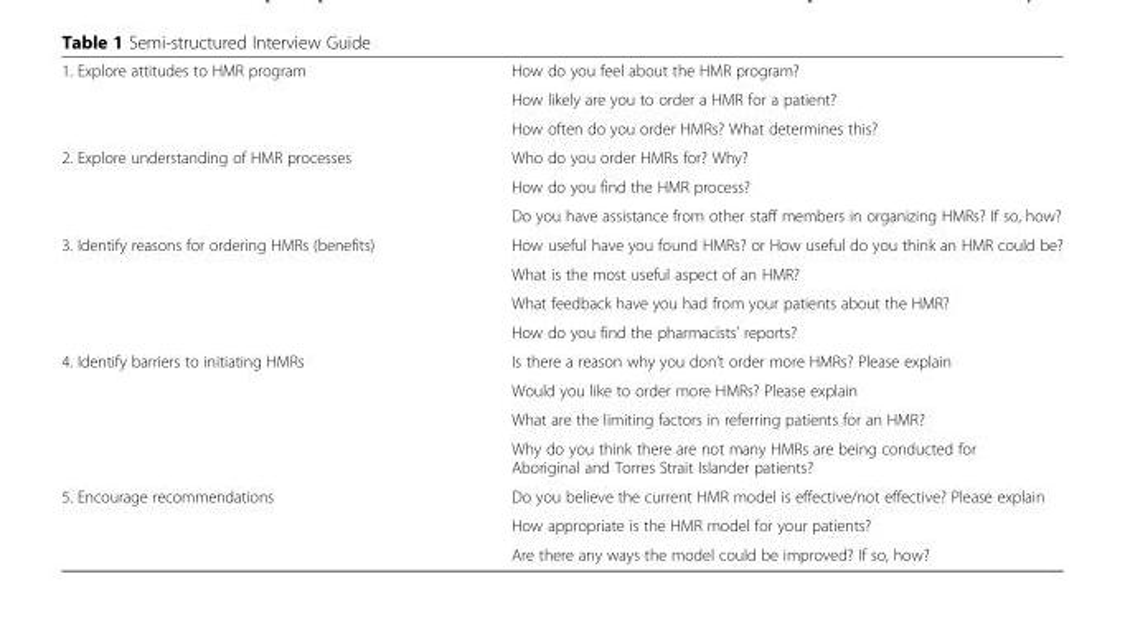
<table><tbody><tr><td rowspan="3">1. Explore attitudes to HMR program</td><td>How do you feel about the HMR program?</td></tr><tr><td>How likely are you to order a HMR for a patient?</td></tr><tr><td>How often do you order HMRs? What determines this?</td></tr><tr><td rowspan="3">2. Explore understanding of HMR processes</td><td>Who do you order HMRs for? Why?</td></tr><tr><td>How do you find the HMR process?</td></tr><tr><td>Do you have assistance from other staff members in organizing HMRs? If so, how?</td></tr><tr><td rowspan="4">3. Identify reasons for ordering HMRs (benefits)</td><td>How useful have you found HMRs? or How useful do you think an HMR could be?</td></tr><tr><td>What is the most useful aspect of an HMR?</td></tr><tr><td>What feedback have you had from your patients about the HMR?</td></tr><tr><td>How do you find the pharmacists’ reports?</td></tr><tr><td rowspan="4">4. Identify barriers to initiating HMRs</td><td>Is there a reason why you don’t order more HMRs? Please explain</td></tr><tr><td>Would you like to order more HMRs? Please explain</td></tr><tr><td>What are the limiting factors in referring patients for an HMR?</td></tr><tr><td>Why do you think there are not many HMRs are being conducted for Aboriginal and Torres Strait Islander patients?</td></tr><tr><td rowspan="3">5. Encourage recommendations</td><td>Do you believe the current HMR model is effective/not effective? Please explain</td></tr><tr><td>How appropriate is the HMR model for your patients?</td></tr><tr><td>Are there any ways the model could be improved? If so, how?</td></tr></tbody></table>